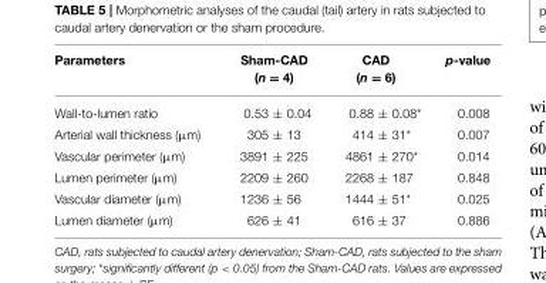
<table><thead><tr><td>Parameters</td><td>Sham-CAD (n = 4)</td><td>CAD (n = 6)</td><td>p-value</td></tr></thead><tbody><tr><td>Wall-to-lumen ratio</td><td>0.53 ± 0.04</td><td>0.88 ± 0.08*</td><td>0.008</td></tr><tr><td>Arterial wall thickness (µm)</td><td>305 ± 13</td><td>414 ± 31*</td><td>0.007</td></tr><tr><td>Vascular perimeter (µm)</td><td>3891 ± 225</td><td>4861 ± 270*</td><td>0.014</td></tr><tr><td>Lumen perimeter (µm)</td><td>2209 ± 260</td><td>2268 ± 187</td><td>0.848</td></tr><tr><td>Vascular diameter (µm)</td><td>1236 ± 56</td><td>1444 ± 51*</td><td>0.025</td></tr><tr><td>Lumen diameter (µm)</td><td>626 ± 41</td><td>616 ± 37</td><td>0.886</td></tr></tbody></table>